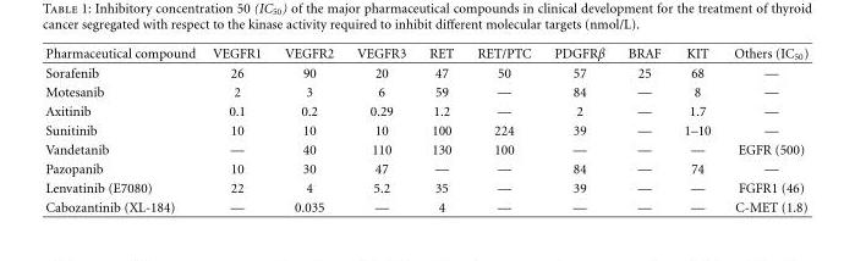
<table><thead><tr><td>Pharmaceutical compound</td><td>VEGFR1</td><td>VEGFR2</td><td>VEGFR3</td><td>RET</td><td>RET/PTC</td><td>PDGFRβ</td><td>BRAF</td><td>KIT</td><td>Others (IC<sub>50</sub>)</td></tr></thead><tbody><tr><td>Sorafenib</td><td>26</td><td>90</td><td>20</td><td>47</td><td>50</td><td>57</td><td>25</td><td>68</td><td>—</td></tr><tr><td>Motesanib</td><td>2</td><td>3</td><td>6</td><td>59</td><td>—</td><td>84</td><td>—</td><td>8</td><td>—</td></tr><tr><td>Axitinib</td><td>0.1</td><td>0.2</td><td>0.29</td><td>1.2</td><td>—</td><td>2</td><td>—</td><td>1.7</td><td>—</td></tr><tr><td>Sunitinib</td><td>10</td><td>10</td><td>10</td><td>100</td><td>224</td><td>39</td><td>—</td><td>1–10</td><td>—</td></tr><tr><td>Vandetanib</td><td>—</td><td>40</td><td>110</td><td>130</td><td>100</td><td>—</td><td>—</td><td>—</td><td>EGFR (500)</td></tr><tr><td>Pazopanib</td><td>10</td><td>30</td><td>47</td><td>—</td><td>—</td><td>84</td><td>—</td><td>74</td><td>—</td></tr><tr><td>Lenvatinib (E7080)</td><td>22</td><td>4</td><td>5.2</td><td>35</td><td>—</td><td>39</td><td>—</td><td>—</td><td>FGFR1 (46)</td></tr><tr><td>Cabozantinib (XL-184)</td><td>—</td><td>0.035</td><td>—</td><td>4</td><td>—</td><td>—</td><td>—</td><td>—</td><td>C-MET (1.8)</td></tr></tbody></table>